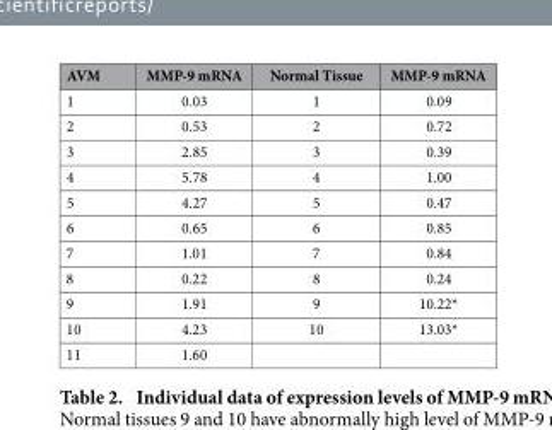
<table><thead><tr><td>AVM</td><td>MMP-9 mRNA</td><td>Normal Tissue</td><td>MMP-9 mRNA</td></tr></thead><tbody><tr><td>1</td><td>0.03</td><td>1</td><td>0.09</td></tr><tr><td>2</td><td>0.53</td><td>2</td><td>0.72</td></tr><tr><td>3</td><td>2.85</td><td>3</td><td>0.39</td></tr><tr><td>4</td><td>5.78</td><td>4</td><td>1.00</td></tr><tr><td>5</td><td>4.27</td><td>5</td><td>0.47</td></tr><tr><td>6</td><td>0.65</td><td>6</td><td>0.85</td></tr><tr><td>7</td><td>1.01</td><td>7</td><td>0.84</td></tr><tr><td>8</td><td>0.22</td><td>8</td><td>0.24</td></tr><tr><td>9</td><td>1.91</td><td>9</td><td>10.22*</td></tr><tr><td>10</td><td>4.23</td><td>10</td><td>13.03*</td></tr><tr><td>11</td><td>1.60</td><td></td><td></td></tr></tbody></table>